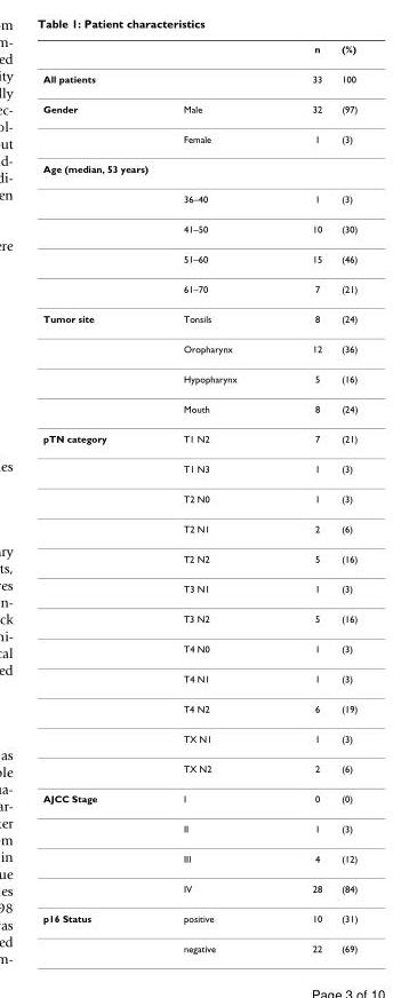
<table><thead><tr><td></td><td></td><td>n</td><td>(%)</td></tr></thead><tbody><tr><td>All patients</td><td></td><td>33</td><td>100</td></tr><tr><td rowspan="2">Gender</td><td>Male</td><td>32</td><td>(97)</td></tr><tr><td>Female</td><td>1</td><td>(3)</td></tr><tr><td colspan="4">Age (median, 53 years)</td></tr><tr><td></td><td>36–40</td><td>1</td><td>(3)</td></tr><tr><td></td><td>41–50</td><td>10</td><td>(30)</td></tr><tr><td></td><td>51–60</td><td>15</td><td>(46)</td></tr><tr><td></td><td>61–70</td><td>7</td><td>(21)</td></tr><tr><td rowspan="4">Tumor site</td><td>Tonsils</td><td>8</td><td>(24)</td></tr><tr><td>Oropharynx</td><td>12</td><td>(36)</td></tr><tr><td>Hypopharynx</td><td>5</td><td>(16)</td></tr><tr><td>Mouth</td><td>8</td><td>(24)</td></tr><tr><td rowspan="12">pTN category</td><td>T1 N2</td><td>7</td><td>(21)</td></tr><tr><td>T1 N3</td><td>1</td><td>(3)</td></tr><tr><td>T2 N0</td><td>1</td><td>(3)</td></tr><tr><td>T2 N1</td><td>2</td><td>(6)</td></tr><tr><td>T2 N2</td><td>5</td><td>(16)</td></tr><tr><td>T3 N1</td><td>1</td><td>(3)</td></tr><tr><td>T3 N2</td><td>5</td><td>(16)</td></tr><tr><td>T4 N0</td><td>1</td><td>(3)</td></tr><tr><td>T4 N1</td><td>1</td><td>(3)</td></tr><tr><td>T4 N2</td><td>6</td><td>(19)</td></tr><tr><td>TX N1</td><td>1</td><td>(3)</td></tr><tr><td>TX N2</td><td>2</td><td>(6)</td></tr><tr><td rowspan="4">AJCC Stage</td><td>I</td><td>0</td><td>(0)</td></tr><tr><td>II</td><td>1</td><td>(3)</td></tr><tr><td>III</td><td>4</td><td>(12)</td></tr><tr><td>IV</td><td>28</td><td>(84)</td></tr><tr><td rowspan="2">p16 Status</td><td>positive</td><td>10</td><td>(31)</td></tr><tr><td>negative</td><td>22</td><td>(69)</td></tr></tbody></table>